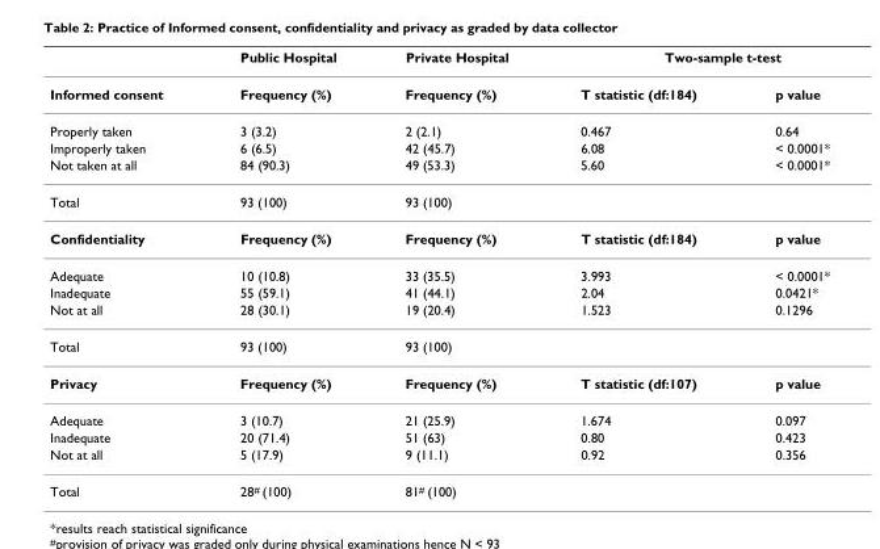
<table><thead><tr><td rowspan="2">Informed consent</td><td rowspan="2">Public Hospital Frequency (%)</td><td rowspan="2">Private Hospital Frequency (%)</td><td colspan="2">Two-sample t-test</td></tr><tr><td>T statistic (df:184)</td><td>p value</td></tr></thead><tbody><tr><td>Properly taken</td><td>3 (3.2)</td><td>2 (2.1)</td><td>0.467</td><td>0.64</td></tr><tr><td>Improperly taken</td><td>6 (6.5)</td><td>42 (45.7)</td><td>6.08</td><td>&lt; 0.0001*</td></tr><tr><td>Not taken at all</td><td>84 (90.3)</td><td>49 (53.3)</td><td>5.60</td><td>&lt; 0.0001*</td></tr><tr><td>Total</td><td>93 (100)</td><td>93 (100)</td><td></td><td></td></tr><tr><td>Confidentiality</td><td>Frequency (%)</td><td>Frequency (%)</td><td>T statistic (df:184)</td><td>p value</td></tr><tr><td>Adequate</td><td>10 (10.8)</td><td>33 (35.5)</td><td>3.993</td><td>&lt; 0.0001*</td></tr><tr><td>Inadequate</td><td>55 (59.1)</td><td>41 (44.1)</td><td>2.04</td><td>0.0421*</td></tr><tr><td>Not at all</td><td>28 (30.1)</td><td>19 (20.4)</td><td>1.523</td><td>0.1296</td></tr><tr><td>Total</td><td>93 (100)</td><td>93 (100)</td><td></td><td></td></tr><tr><td>Privacy</td><td>Frequency (%)</td><td>Frequency (%)</td><td>T statistic (df:107)</td><td>p value</td></tr><tr><td>Adequate</td><td>3 (10.7)</td><td>21 (25.9)</td><td>1.674</td><td>0.097</td></tr><tr><td>Inadequate</td><td>20 (71.4)</td><td>51 (63)</td><td>0.80</td><td>0.423</td></tr><tr><td>Not at all</td><td>5 (17.9)</td><td>9 (11.1)</td><td>0.92</td><td>0.356</td></tr><tr><td>Total</td><td>28<sup>#</sup> (100)</td><td>81<sup>#</sup> (100)</td><td></td><td></td></tr></tbody></table>